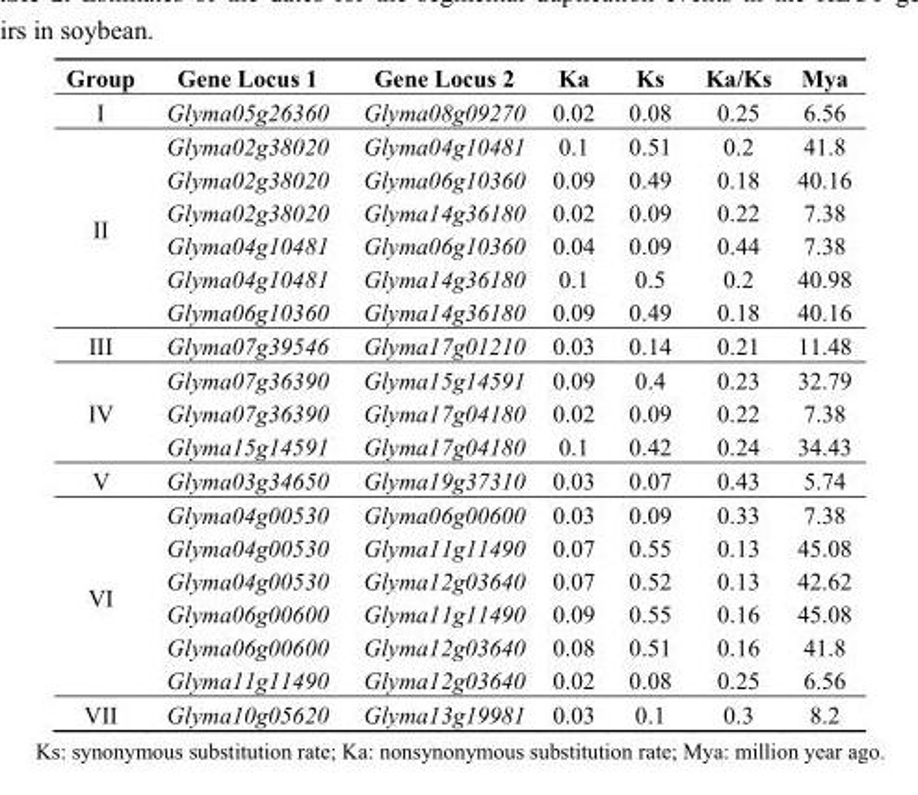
<table><thead><tr><td>Group</td><td>Gene Locus 1</td><td>Gene Locus 2</td><td>Ka</td><td>Ks</td><td>Ka/Ks</td><td>Mya</td></tr></thead><tbody><tr><td>I</td><td>Glyma05g26360</td><td>Glyma08g09270</td><td>0.02</td><td>0.08</td><td>0.25</td><td>6.56</td></tr><tr><td rowspan="6">II</td><td>Glyma02g38020</td><td>Glyma04g10481</td><td>0.1</td><td>0.51</td><td>0.2</td><td>41.8</td></tr><tr><td>Glyma02g38020</td><td>Glyma06g10360</td><td>0.09</td><td>0.49</td><td>0.18</td><td>40.16</td></tr><tr><td>Glyma02g38020</td><td>Glyma14g36180</td><td>0.02</td><td>0.09</td><td>0.22</td><td>7.38</td></tr><tr><td>Glyma04g10481</td><td>Glyma06g10360</td><td>0.04</td><td>0.09</td><td>0.44</td><td>7.38</td></tr><tr><td>Glyma04g10481</td><td>Glyma14g36180</td><td>0.1</td><td>0.5</td><td>0.2</td><td>40.98</td></tr><tr><td>Glyma06g10360</td><td>Glyma14g36180</td><td>0.09</td><td>0.49</td><td>0.18</td><td>40.16</td></tr><tr><td>III</td><td>Glyma07g39546</td><td>Glyma17g01210</td><td>0.03</td><td>0.14</td><td>0.21</td><td>11.48</td></tr><tr><td rowspan="3">IV</td><td>Glyma07g36390</td><td>Glyma15g14591</td><td>0.09</td><td>0.4</td><td>0.23</td><td>32.79</td></tr><tr><td>Glyma07g36390</td><td>Glyma17g04180</td><td>0.02</td><td>0.09</td><td>0.22</td><td>7.38</td></tr><tr><td>Glyma15g14591</td><td>Glyma17g04180</td><td>0.1</td><td>0.42</td><td>0.24</td><td>34.43</td></tr><tr><td>V</td><td>Glyma03g34650</td><td>Glyma19g37310</td><td>0.03</td><td>0.07</td><td>0.43</td><td>5.74</td></tr><tr><td rowspan="6">VI</td><td>Glyma04g00530</td><td>Glyma06g00600</td><td>0.03</td><td>0.09</td><td>0.33</td><td>7.38</td></tr><tr><td>Glyma04g00530</td><td>Glyma11g11490</td><td>0.07</td><td>0.55</td><td>0.13</td><td>45.08</td></tr><tr><td>Glyma04g00530</td><td>Glyma12g03640</td><td>0.07</td><td>0.52</td><td>0.13</td><td>42.62</td></tr><tr><td>Glyma06g00600</td><td>Glyma11g11490</td><td>0.09</td><td>0.55</td><td>0.16</td><td>45.08</td></tr><tr><td>Glyma06g00600</td><td>Glyma12g03640</td><td>0.08</td><td>0.51</td><td>0.16</td><td>41.8</td></tr><tr><td>Glyma11g11490</td><td>Glyma12g03640</td><td>0.02</td><td>0.08</td><td>0.25</td><td>6.56</td></tr><tr><td>VII</td><td>Glyma10g05620</td><td>Glyma13g19981</td><td>0.03</td><td>0.1</td><td>0.3</td><td>8.2</td></tr></tbody></table>